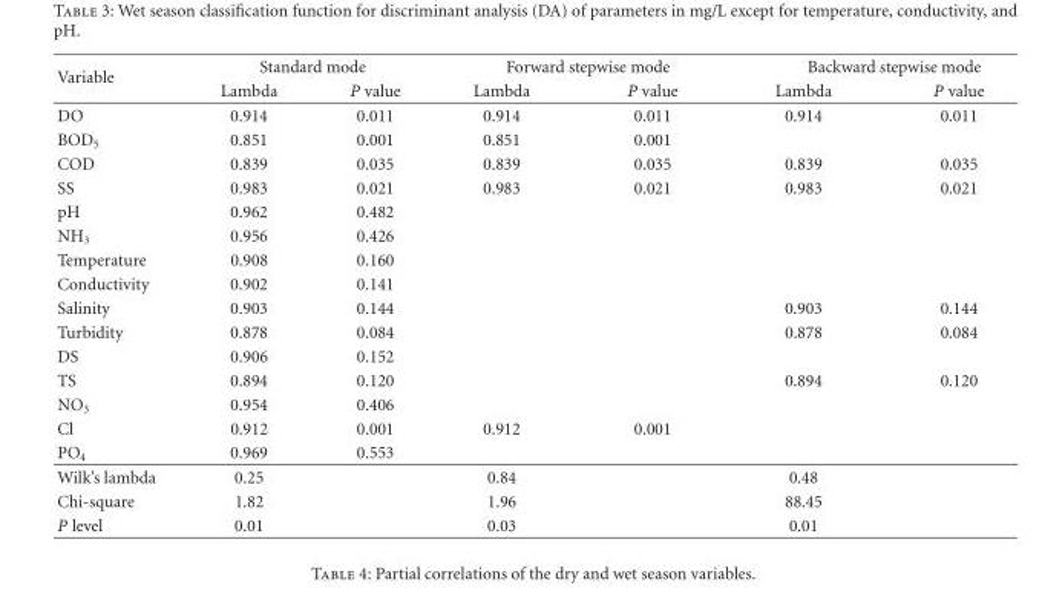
<table><thead><tr><td rowspan="2">Variable</td><td colspan="2">Standard mode</td><td colspan="2">Forward stepwise mode</td><td colspan="2">Backward stepwise mode</td></tr><tr><td>Lambda</td><td>P value</td><td>Lambda</td><td>P value</td><td>Lambda</td><td>P value</td></tr></thead><tbody><tr><td>DO</td><td>0.914</td><td>0.011</td><td>0.914</td><td>0.011</td><td>0.914</td><td>0.011</td></tr><tr><td>BOD<sub>5</sub></td><td>0.851</td><td>0.001</td><td>0.851</td><td>0.001</td><td></td><td></td></tr><tr><td>COD</td><td>0.839</td><td>0.035</td><td>0.839</td><td>0.035</td><td>0.839</td><td>0.035</td></tr><tr><td>SS</td><td>0.983</td><td>0.021</td><td>0.983</td><td>0.021</td><td>0.983</td><td>0.021</td></tr><tr><td>pH</td><td>0.962</td><td>0.482</td><td></td><td></td><td></td><td></td></tr><tr><td>NH<sub>3</sub></td><td>0.956</td><td>0.426</td><td></td><td></td><td></td><td></td></tr><tr><td>Temperature</td><td>0.908</td><td>0.160</td><td></td><td></td><td></td><td></td></tr><tr><td>Conductivity</td><td>0.902</td><td>0.141</td><td></td><td></td><td></td><td></td></tr><tr><td>Salinity</td><td>0.903</td><td>0.144</td><td></td><td></td><td>0.903</td><td>0.144</td></tr><tr><td>Turbidity</td><td>0.878</td><td>0.084</td><td></td><td></td><td>0.878</td><td>0.084</td></tr><tr><td>DS</td><td>0.906</td><td>0.152</td><td></td><td></td><td></td><td></td></tr><tr><td>TS</td><td>0.894</td><td>0.120</td><td></td><td></td><td>0.894</td><td>0.120</td></tr><tr><td>NO<sub>3</sub></td><td>0.954</td><td>0.406</td><td></td><td></td><td></td><td></td></tr><tr><td>Cl</td><td>0.912</td><td>0.001</td><td>0.912</td><td>0.001</td><td></td><td></td></tr><tr><td>PO<sub>4</sub></td><td>0.969</td><td>0.553</td><td></td><td></td><td></td><td></td></tr><tr><td>Wilk’s lambda</td><td>0.25</td><td></td><td>0.84</td><td></td><td>0.48</td><td></td></tr><tr><td>Chi-square</td><td>1.82</td><td></td><td>1.96</td><td></td><td>88.45</td><td></td></tr><tr><td>P level</td><td>0.01</td><td></td><td>0.03</td><td></td><td>0.01</td><td></td></tr></tbody></table>